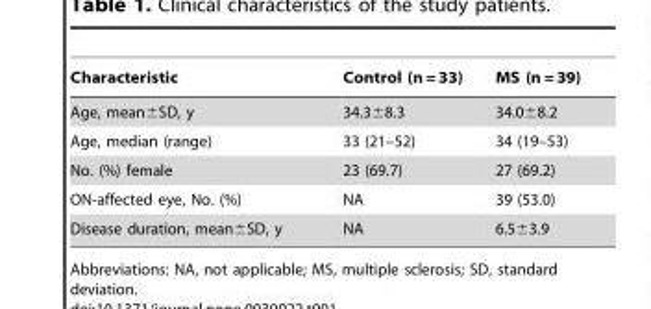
<table><thead><tr><td>Characteristic</td><td>Control (n = 33)</td><td>MS (n = 39)</td></tr></thead><tbody><tr><td>Age, mean±SD, y</td><td>34.3±8.3</td><td>34.0±8.2</td></tr><tr><td>Age, median (range)</td><td>33 (21–52)</td><td>34 (19–53)</td></tr><tr><td>No. (%) female</td><td>23 (69.7)</td><td>27 (69.2)</td></tr><tr><td>ON-affected eye, No. (%)</td><td>NA</td><td>39 (53.0)</td></tr><tr><td>Disease duration, mean±SD, y</td><td>NA</td><td>6.5±3.9</td></tr></tbody></table>